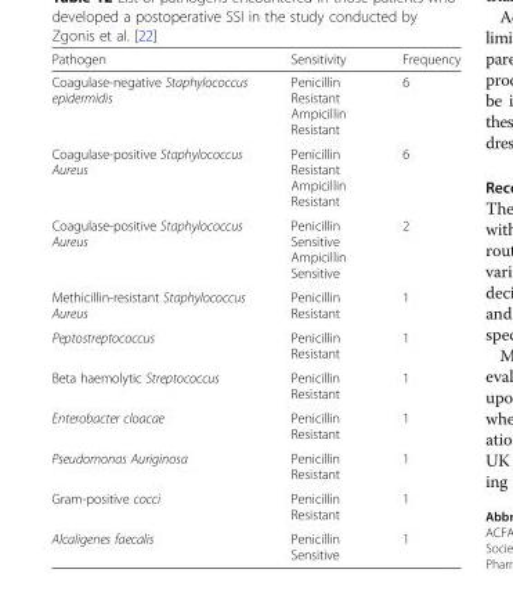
<table><thead><tr><td>Pathogen</td><td>Sensitivity</td><td>Frequency</td></tr></thead><tbody><tr><td>Coagulase-negative Staphylococcus epidermidis</td><td>Penicillin Resistant Ampicillin Resistant</td><td>6</td></tr><tr><td>Coagulase-positive Staphylococcus Aureus</td><td>Penicillin Resistant Ampicillin Resistant</td><td>6</td></tr><tr><td>Coagulase-positive Staphylococcus Aureus</td><td>Penicillin Sensitive Ampicillin Sensitive</td><td>2</td></tr><tr><td>Methicillin-resistant Staphylococcus Aureus</td><td>Penicillin Resistant</td><td>1</td></tr><tr><td>Peptostreptococcus</td><td>Penicillin Resistant</td><td>1</td></tr><tr><td>Beta haemolytic Streptococcus</td><td>Penicillin Resistant</td><td>1</td></tr><tr><td>Enterobacter cloacae</td><td>Penicillin Resistant</td><td>1</td></tr><tr><td>Pseudomonas Auriginosa</td><td>Penicillin Resistant</td><td>1</td></tr><tr><td>Gram-positive cocci</td><td>Penicillin Resistant</td><td>1</td></tr><tr><td>Alcaligenes faecalis</td><td>Penicillin Sensitive</td><td>1</td></tr></tbody></table>